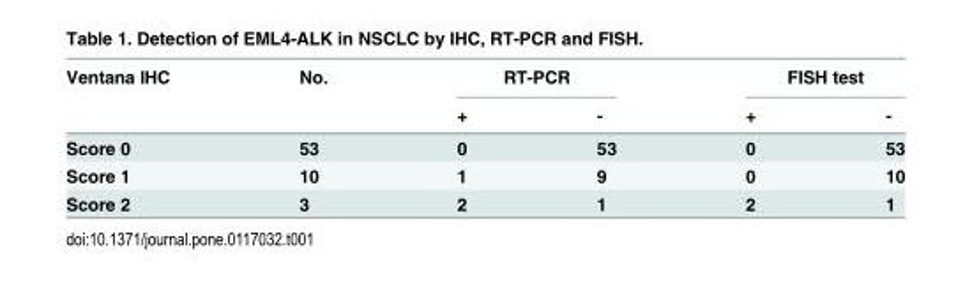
<table><thead><tr><td rowspan="2">Ventana IHC</td><td rowspan="2">No.</td><td colspan="2">RT-PCR</td><td colspan="2">FISH test</td></tr><tr><td>+</td><td>-</td><td>+</td><td>-</td></tr></thead><tbody><tr><td>Score 0</td><td>53</td><td>0</td><td>53</td><td>0</td><td>53</td></tr><tr><td>Score 1</td><td>10</td><td>1</td><td>9</td><td>0</td><td>10</td></tr><tr><td>Score 2</td><td>3</td><td>2</td><td>1</td><td>2</td><td>1</td></tr></tbody></table>